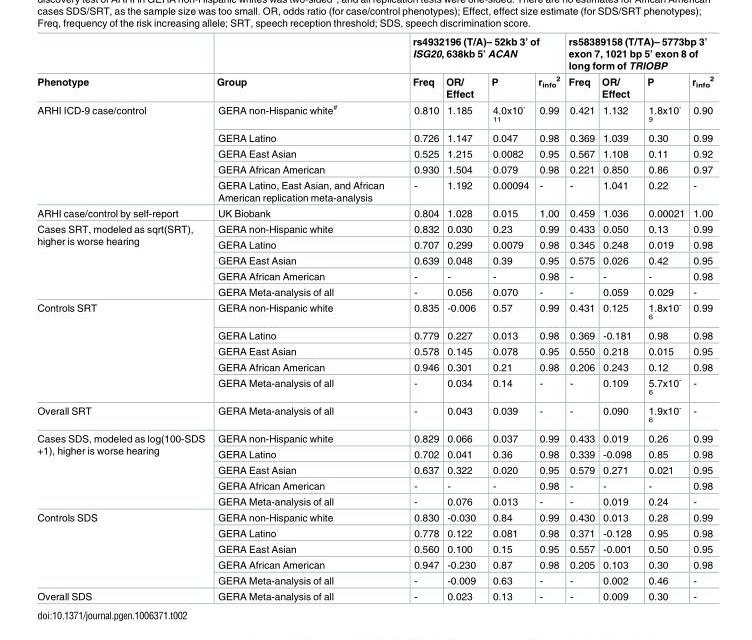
<table><thead><tr><td rowspan="2">Phenotype</td><td rowspan="2">Group</td><td colspan="4">rs4932196 (T/A)– 52kb 3’ of ISG20, 638kb 5’ ACAN</td><td colspan="4">rs58389158 (T/TA)– 5773bp 3’ exon 7, 1021 bp 5’ exon 8 of long form of TRIOBP</td></tr><tr><td>Freq</td><td>OR/ Effect</td><td>P</td><td>r<sub>info</sub> <sup>2</sup></td><td>Freq</td><td>OR/ Effect</td><td>P</td><td>r<sub>info</sub> <sup>2</sup></td></tr></thead><tbody><tr><td rowspan="5">ARHI ICD-9 case/control</td><td>GERA non-Hispanic white<sup>#</sup></td><td>0.810</td><td>1.185</td><td>4.0x10<sup>- 11</sup></td><td>0.99</td><td>0.421</td><td>1.132</td><td>1.8x10<sup>- 9</sup></td><td>0.90</td></tr><tr><td>GERA Latino</td><td>0.726</td><td>1.147</td><td>0.047</td><td>0.98</td><td>0.369</td><td>1.039</td><td>0.30</td><td>0.99</td></tr><tr><td>GERA East Asian</td><td>0.525</td><td>1.215</td><td>0.0082</td><td>0.95</td><td>0.567</td><td>1.108</td><td>0.11</td><td>0.92</td></tr><tr><td>GERA African American</td><td>0.930</td><td>1.504</td><td>0.079</td><td>0.98</td><td>0.221</td><td>0.850</td><td>0.86</td><td>0.97</td></tr><tr><td>GERA Latino, East Asian, and African American replication meta-analysis</td><td>-</td><td>1.192</td><td>0.00094</td><td>-</td><td>-</td><td>1.041</td><td>0.22</td><td>-</td></tr><tr><td>ARHI case/control by self-report</td><td>UK Biobank</td><td>0.804</td><td>1.028</td><td>0.015</td><td>1.00</td><td>0.459</td><td>1.036</td><td>0.00021</td><td>1.00</td></tr><tr><td rowspan="5">Cases SRT, modeled as sqrt(SRT), higher is worse hearing</td><td>GERA non-Hispanic white</td><td>0.832</td><td>0.030</td><td>0.23</td><td>0.99</td><td>0.433</td><td>0.050</td><td>0.13</td><td>0.99</td></tr><tr><td>GERA Latino</td><td>0.707</td><td>0.299</td><td>0.0079</td><td>0.98</td><td>0.345</td><td>0.248</td><td>0.019</td><td>0.98</td></tr><tr><td>GERA East Asian</td><td>0.639</td><td>0.048</td><td>0.39</td><td>0.95</td><td>0.575</td><td>0.026</td><td>0.42</td><td>0.95</td></tr><tr><td>GERA African American</td><td>-</td><td>-</td><td>-</td><td>0.98</td><td>-</td><td>-</td><td>-</td><td>0.98</td></tr><tr><td>GERA Meta-analysis of all</td><td>-</td><td>0.056</td><td>0.070</td><td>-</td><td>-</td><td>0.059</td><td>0.029</td><td>-</td></tr><tr><td rowspan="5">Controls SRT</td><td>GERA non-Hispanic white</td><td>0.835</td><td>-0.006</td><td>0.57</td><td>0.99</td><td>0.431</td><td>0.125</td><td>1.8x10<sup>- 6</sup></td><td>0.99</td></tr><tr><td>GERA Latino</td><td>0.779</td><td>0.227</td><td>0.013</td><td>0.98</td><td>0.369</td><td>-0.181</td><td>0.98</td><td>0.98</td></tr><tr><td>GERA East Asian</td><td>0.578</td><td>0.145</td><td>0.078</td><td>0.95</td><td>0.550</td><td>0.218</td><td>0.015</td><td>0.95</td></tr><tr><td>GERA African American</td><td>0.946</td><td>0.301</td><td>0.21</td><td>0.98</td><td>0.206</td><td>0.243</td><td>0.12</td><td>0.98</td></tr><tr><td>GERA Meta-analysis of all</td><td>-</td><td>0.034</td><td>0.14</td><td>-</td><td>-</td><td>0.109</td><td>5.7x10<sup>- 6</sup></td><td>-</td></tr><tr><td>Overall SRT</td><td>GERA Meta-analysis of all</td><td>-</td><td>0.043</td><td>0.039</td><td>-</td><td>-</td><td>0.090</td><td>1.9x10<sup>- 6</sup></td><td>-</td></tr><tr><td rowspan="5">Cases SDS, modeled as log(100-SDS +1), higher is worse hearing</td><td>GERA non-Hispanic white</td><td>0.829</td><td>0.066</td><td>0.037</td><td>0.99</td><td>0.433</td><td>0.019</td><td>0.26</td><td>0.99</td></tr><tr><td>GERA Latino</td><td>0.702</td><td>0.041</td><td>0.36</td><td>0.98</td><td>0.339</td><td>-0.098</td><td>0.85</td><td>0.98</td></tr><tr><td>GERA East Asian</td><td>0.637</td><td>0.322</td><td>0.020</td><td>0.95</td><td>0.579</td><td>0.271</td><td>0.021</td><td>0.95</td></tr><tr><td>GERA African American</td><td>-</td><td>-</td><td>-</td><td>0.98</td><td>-</td><td>-</td><td>-</td><td>0.98</td></tr><tr><td>GERA Meta-analysis of all</td><td>-</td><td>0.076</td><td>0.013</td><td>-</td><td>-</td><td>0.019</td><td>0.24</td><td>-</td></tr><tr><td rowspan="5">Controls SDS</td><td>GERA non-Hispanic white</td><td>0.830</td><td>-0.030</td><td>0.84</td><td>0.99</td><td>0.430</td><td>0.013</td><td>0.28</td><td>0.99</td></tr><tr><td>GERA Latino</td><td>0.778</td><td>0.122</td><td>0.081</td><td>0.98</td><td>0.371</td><td>-0.128</td><td>0.95</td><td>0.98</td></tr><tr><td>GERA East Asian</td><td>0.560</td><td>0.100</td><td>0.15</td><td>0.95</td><td>0.557</td><td>-0.001</td><td>0.50</td><td>0.95</td></tr><tr><td>GERA African American</td><td>0.947</td><td>-0.230</td><td>0.87</td><td>0.98</td><td>0.205</td><td>0.103</td><td>0.30</td><td>0.98</td></tr><tr><td>GERA Meta-analysis of all</td><td>-</td><td>-0.009</td><td>0.63</td><td>-</td><td>-</td><td>0.002</td><td>0.46</td><td>-</td></tr><tr><td>Overall SDS</td><td>GERA Meta-analysis of all</td><td>-</td><td>0.023</td><td>0.13</td><td>-</td><td>-</td><td>0.009</td><td>0.30</td><td>-</td></tr></tbody></table>